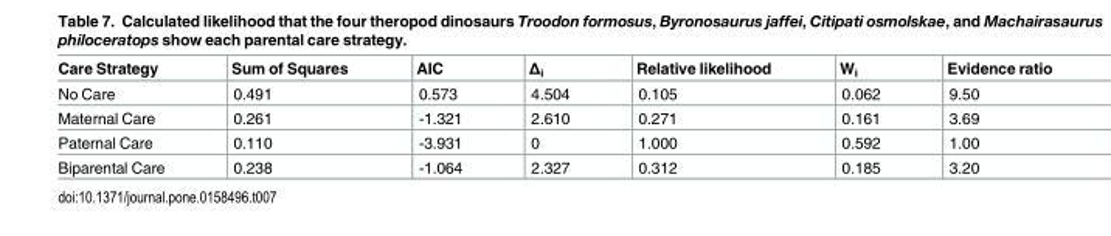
<table><thead><tr><td>Care Strategy</td><td>Sum of Squares</td><td>AIC</td><td>Δ<sub>i</sub></td><td>Relative likelihood</td><td>W<sub>i</sub></td><td>Evidence ratio</td></tr></thead><tbody><tr><td>No Care</td><td>0.491</td><td>0.573</td><td>4.504</td><td>0.105</td><td>0.062</td><td>9.50</td></tr><tr><td>Maternal Care</td><td>0.261</td><td>-1.321</td><td>2.610</td><td>0.271</td><td>0.161</td><td>3.69</td></tr><tr><td>Paternal Care</td><td>0.110</td><td>-3.931</td><td>0</td><td>1.000</td><td>0.592</td><td>1.00</td></tr><tr><td>Biparental Care</td><td>0.238</td><td>-1.064</td><td>2.327</td><td>0.312</td><td>0.185</td><td>3.20</td></tr></tbody></table>